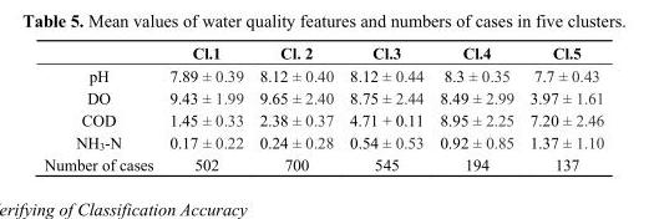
<table><thead><tr><td></td><td>Cl.1</td><td>Cl. 2</td><td>Cl.3</td><td>Cl.4</td><td>Cl.5</td></tr></thead><tbody><tr><td>pH</td><td>7.89 ± 0.39</td><td>8.12 ± 0.40</td><td>8.12 ± 0.44</td><td>8.3 ± 0.35</td><td>7.7 ± 0.43</td></tr><tr><td>DO</td><td>9.43 ± 1.99</td><td>9.65 ± 2.40</td><td>8.75 ± 2.44</td><td>8.49 ± 2.99</td><td>3.97 ± 1.61</td></tr><tr><td>COD</td><td>1.45 ± 0.33</td><td>2.38 ± 0.37</td><td>4.71 + 0.11</td><td>8.95 ± 2.25</td><td>7.20 ± 2.46</td></tr><tr><td>NH<sub>3</sub>-N</td><td>0.17 ± 0.22</td><td>0.24 ± 0.28</td><td>0.54 ± 0.53</td><td>0.92 ± 0.85</td><td>1.37 ± 1.10</td></tr><tr><td>Number of cases</td><td>502</td><td>700</td><td>545</td><td>194</td><td>137</td></tr></tbody></table>